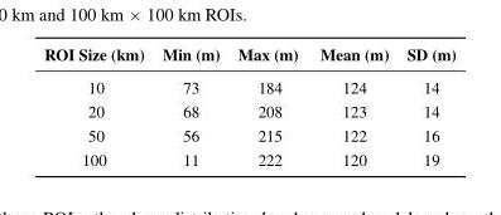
<table><thead><tr><td>ROI Size (km)</td><td>Min (m)</td><td>Max (m)</td><td>Mean (m)</td><td>SD (m)</td></tr></thead><tbody><tr><td>10</td><td>73</td><td>184</td><td>124</td><td>14</td></tr><tr><td>20</td><td>68</td><td>208</td><td>123</td><td>14</td></tr><tr><td>50</td><td>56</td><td>215</td><td>122</td><td>16</td></tr><tr><td>100</td><td>11</td><td>222</td><td>120</td><td>19</td></tr></tbody></table>